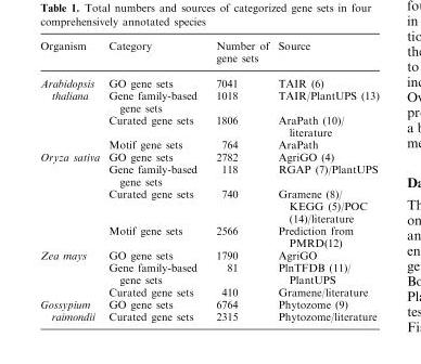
<table><thead><tr><td>Organism</td><td>Category</td><td>Number of gene sets</td><td>Source</td></tr></thead><tbody><tr><td rowspan="4">Arabidopsis thaliana</td><td>GO gene sets</td><td>7041</td><td>TAIR (6)</td></tr><tr><td>Gene family-based gene sets</td><td>1018</td><td>TAIR/PlantUPS (13)</td></tr><tr><td>Curated gene sets</td><td>1806</td><td>AraPath (10)/ literature</td></tr><tr><td>Motif gene sets</td><td>764</td><td>AraPath</td></tr><tr><td rowspan="4">Oryza sativa</td><td>GO gene sets</td><td>2782</td><td>AgriGO (4)</td></tr><tr><td>Gene family-based gene sets</td><td>118</td><td>RGAP (7)/PlantUPS</td></tr><tr><td>Curated gene sets</td><td>740</td><td>Gramene (8)/ KEGG (5)/POC (14)/literature</td></tr><tr><td>Motif gene sets</td><td>2566</td><td>Prediction from PMRD(12)</td></tr><tr><td rowspan="3">Zea mays</td><td>GO gene sets</td><td>1790</td><td>AgriGO</td></tr><tr><td>Gene family-based gene sets</td><td>81</td><td>PlnTFDB (11)/ PlantUPS</td></tr><tr><td>Curated gene sets</td><td>410</td><td>Gramene/literature</td></tr><tr><td rowspan="2">Gossypium raimondii</td><td>GO gene sets</td><td>6764</td><td>Phytozome (9)</td></tr><tr><td>Curated gene sets</td><td>2315</td><td>Phytozome/literature</td></tr></tbody></table>